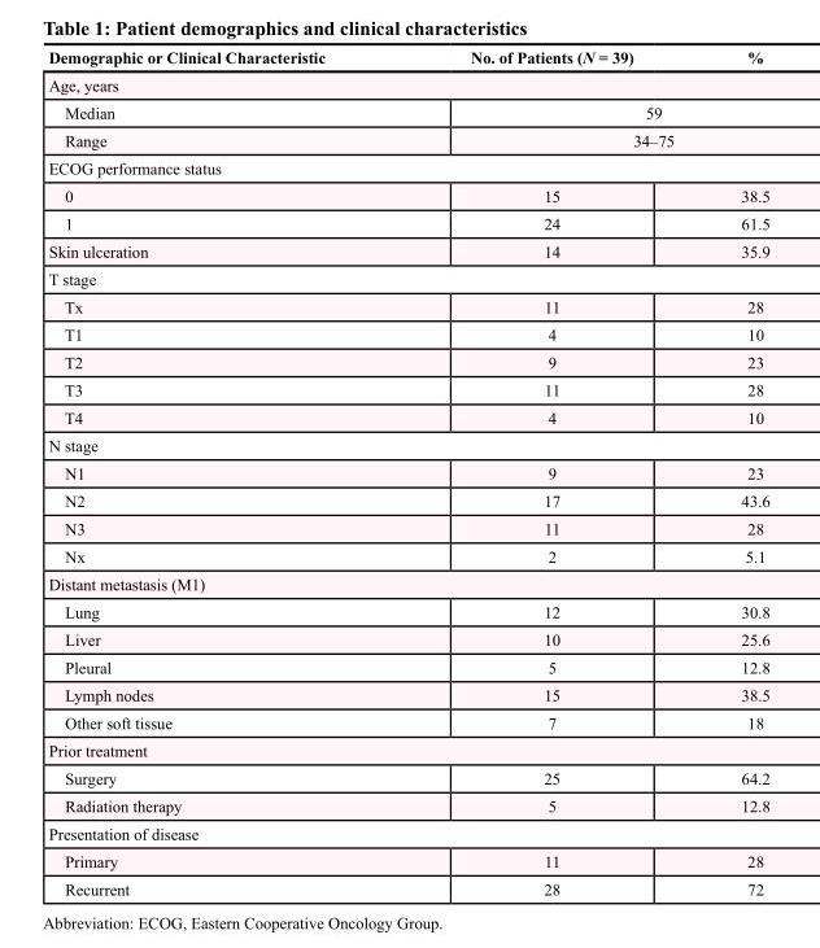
<table><thead><tr><td>Demographic or Clinical Characteristic</td><td>No. of Patients (N = 39)</td><td>%</td></tr></thead><tbody><tr><td colspan="3">Age, years</td></tr><tr><td>Median</td><td colspan="2">59</td></tr><tr><td>Range</td><td colspan="2">34–75</td></tr><tr><td colspan="3">ECOG performance status</td></tr><tr><td>0</td><td>15</td><td>38.5</td></tr><tr><td>1</td><td>24</td><td>61.5</td></tr><tr><td>Skin ulceration</td><td>14</td><td>35.9</td></tr><tr><td colspan="3">T stage</td></tr><tr><td>Tx</td><td>11</td><td>28</td></tr><tr><td>T1</td><td>4</td><td>10</td></tr><tr><td>T2</td><td>9</td><td>23</td></tr><tr><td>T3</td><td>11</td><td>28</td></tr><tr><td>T4</td><td>4</td><td>10</td></tr><tr><td colspan="3">N stage</td></tr><tr><td>N1</td><td>9</td><td>23</td></tr><tr><td>N2</td><td>17</td><td>43.6</td></tr><tr><td>N3</td><td>11</td><td>28</td></tr><tr><td>Nx</td><td>2</td><td>5.1</td></tr><tr><td colspan="3">Distant metastasis (M1)</td></tr><tr><td>Lung</td><td>12</td><td>30.8</td></tr><tr><td>Liver</td><td>10</td><td>25.6</td></tr><tr><td>Pleural</td><td>5</td><td>12.8</td></tr><tr><td>Lymph nodes</td><td>15</td><td>38.5</td></tr><tr><td>Other soft tissue</td><td>7</td><td>18</td></tr><tr><td colspan="3">Prior treatment</td></tr><tr><td>Surgery</td><td>25</td><td>64.2</td></tr><tr><td>Radiation therapy</td><td>5</td><td>12.8</td></tr><tr><td colspan="3">Presentation of disease</td></tr><tr><td>Primary</td><td>11</td><td>28</td></tr><tr><td>Recurrent</td><td>28</td><td>72</td></tr></tbody></table>